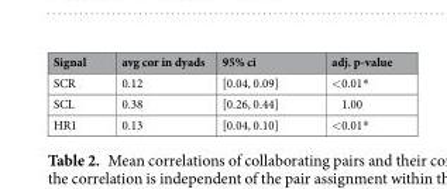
<table><thead><tr><td>Signal</td><td>avg cor in dyads</td><td>95% ci</td><td>adj. p-value</td></tr></thead><tbody><tr><td>SCR</td><td>0.12</td><td>[0.04, 0.09]</td><td>&lt;0.01*</td></tr><tr><td>SCL</td><td>0.38</td><td>[0.26, 0.44]</td><td>1.00</td></tr><tr><td>HR1</td><td>0.13</td><td>[0.04, 0.10]</td><td>&lt;0.01*</td></tr></tbody></table>